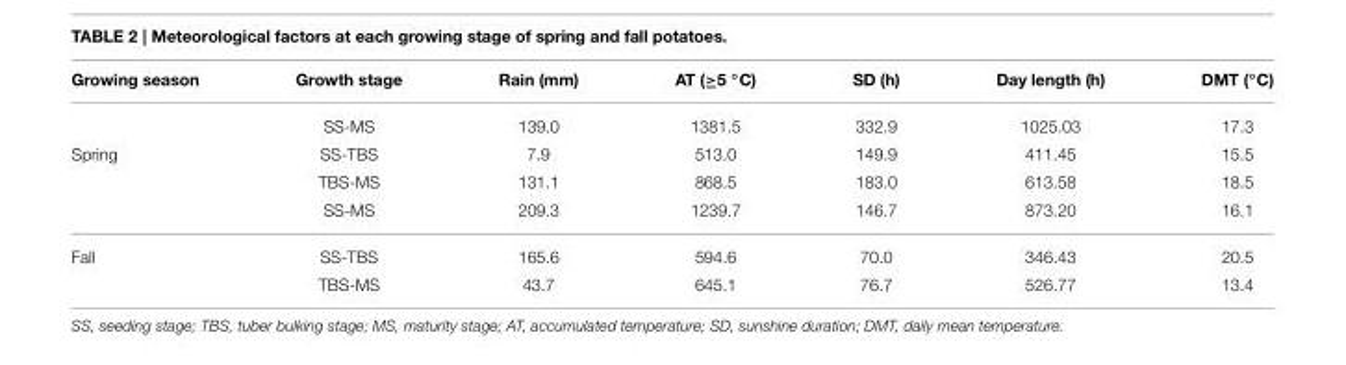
<table><thead><tr><td>Growing season</td><td>Growth stage</td><td>Rain (mm)</td><td>AT (≥5 ◦C)</td><td>SD (h)</td><td>Day length (h)</td><td>DMT (◦C)</td></tr></thead><tbody><tr><td></td><td>SS-MS</td><td>139.0</td><td>1381.5</td><td>332.9</td><td>1025.03</td><td>17.3</td></tr><tr><td rowspan="3">Spring</td><td>SS-TBS</td><td>7.9</td><td>513.0</td><td>149.9</td><td>411.45</td><td>15.5</td></tr><tr><td>TBS-MS</td><td>131.1</td><td>868.5</td><td>183.0</td><td>613.58</td><td>18.5</td></tr><tr><td>SS-MS</td><td>209.3</td><td>1239.7</td><td>146.7</td><td>873.20</td><td>16.1</td></tr><tr><td rowspan="2">Fall</td><td>SS-TBS</td><td>165.6</td><td>594.6</td><td>70.0</td><td>346.43</td><td>20.5</td></tr><tr><td>TBS-MS</td><td>43.7</td><td>645.1</td><td>76.7</td><td>526.77</td><td>13.4</td></tr></tbody></table>